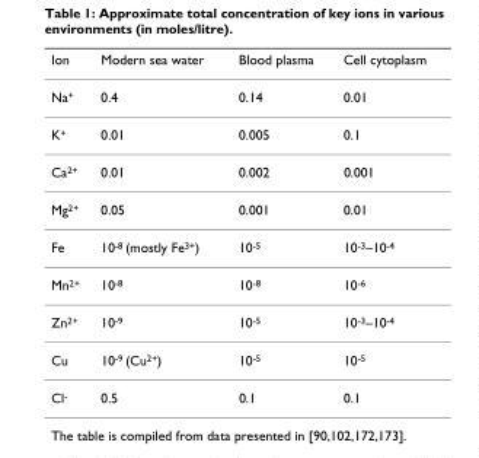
<table><thead><tr><td>Ion</td><td>Modern sea water</td><td>Blood plasma</td><td>Cell cytoplasm</td></tr></thead><tbody><tr><td>Na<sup>+</sup></td><td>0.4</td><td>0.14</td><td>0.01</td></tr><tr><td>K<sup>+</sup></td><td>0.01</td><td>0.005</td><td>0.1</td></tr><tr><td>Ca<sup>2+</sup></td><td>0.01</td><td>0.002</td><td>0.001</td></tr><tr><td>Mg<sup>2+</sup></td><td>0.05</td><td>0.001</td><td>0.01</td></tr><tr><td>Fe</td><td>10<sup>-8</sup> (mostly Fe<sup>3+</sup>)</td><td>10<sup>-5</sup></td><td>10<sup>-3</sup>–10<sup>-4</sup></td></tr><tr><td>Mn<sup>2+</sup></td><td>10<sup>-8</sup></td><td>10<sup>-8</sup></td><td>10<sup>-6</sup></td></tr><tr><td>Zn<sup>2+</sup></td><td>10<sup>-9</sup></td><td>10<sup>-5</sup></td><td>10<sup>-3</sup>–10<sup>-4</sup></td></tr><tr><td>Cu</td><td>10<sup>-9</sup> (Cu<sup>2+</sup>)</td><td>10<sup>-5</sup></td><td>10<sup>-5</sup></td></tr><tr><td>Cl<sup>-</sup></td><td>0.5</td><td>0.1</td><td>0.1</td></tr></tbody></table>